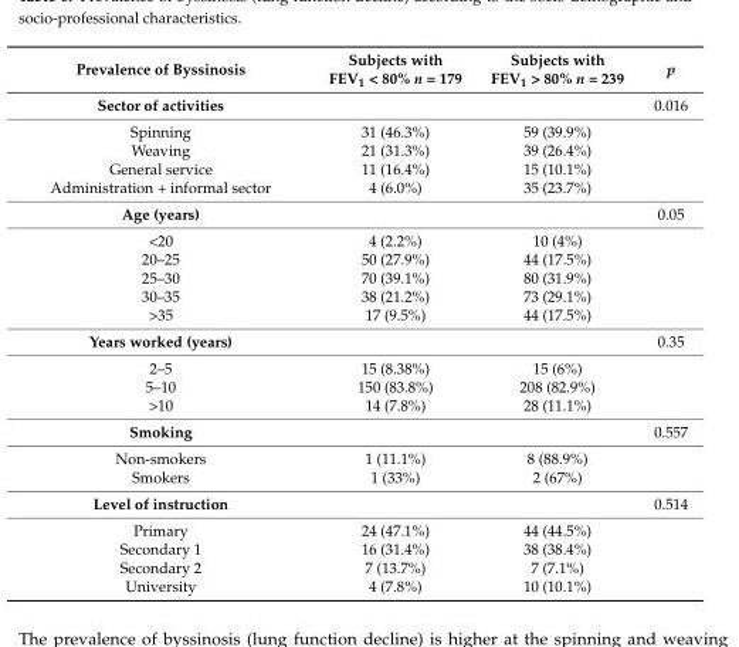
<table><thead><tr><td>Prevalence of Byssinosis</td><td>Subjects with FEV<sub>1</sub> &lt; 80% n = 179</td><td>Subjects with FEV<sub>1</sub> &gt; 80% n = 239</td><td>p</td></tr></thead><tbody><tr><td>Sector of activities</td><td></td><td></td><td>0.016</td></tr><tr><td>Spinning</td><td>31 (46.3%)</td><td>59 (39.9%)</td><td></td></tr><tr><td>Weaving</td><td>21 (31.3%)</td><td>39 (26.4%)</td><td></td></tr><tr><td>General service</td><td>11 (16.4%)</td><td>15 (10.1%)</td><td></td></tr><tr><td>Administration + informal sector</td><td>4 (6.0%)</td><td>35 (23.7%)</td><td></td></tr><tr><td>Age (years)</td><td></td><td></td><td>0.05</td></tr><tr><td>&lt;20</td><td>4 (2.2%)</td><td>10 (4%)</td><td></td></tr><tr><td>20–25</td><td>50 (27.9%)</td><td>44 (17.5%)</td><td></td></tr><tr><td>25–30</td><td>70 (39.1%)</td><td>80 (31.9%)</td><td></td></tr><tr><td>30–35</td><td>38 (21.2%)</td><td>73 (29.1%)</td><td></td></tr><tr><td>&gt;35</td><td>17 (9.5%)</td><td>44 (17.5%)</td><td></td></tr><tr><td>Years worked (years)</td><td></td><td></td><td>0.35</td></tr><tr><td>2–5</td><td>15 (8.38%)</td><td>15 (6%)</td><td></td></tr><tr><td>5–10</td><td>150 (83.8%)</td><td>208 (82.9%)</td><td></td></tr><tr><td>&gt;10</td><td>14 (7.8%)</td><td>28 (11.1%)</td><td></td></tr><tr><td>Smoking</td><td></td><td></td><td>0.557</td></tr><tr><td>Non-smokers</td><td>1 (11.1%)</td><td>8 (88.9%)</td><td></td></tr><tr><td>Smokers</td><td>1 (33%)</td><td>2 (67%)</td><td></td></tr><tr><td>Level of instruction</td><td></td><td></td><td>0.514</td></tr><tr><td>Primary</td><td>24 (47.1%)</td><td>44 (44.5%)</td><td></td></tr><tr><td>Secondary 1</td><td>16 (31.4%)</td><td>38 (38.4%)</td><td></td></tr><tr><td>Secondary 2</td><td>7 (13.7%)</td><td>7 (7.1%)</td><td></td></tr><tr><td>University</td><td>4 (7.8%)</td><td>10 (10.1%)</td><td></td></tr></tbody></table>